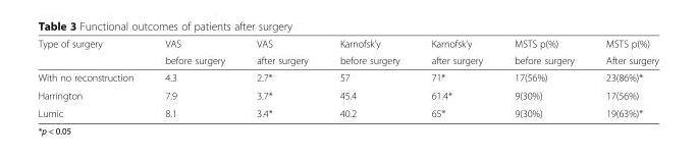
<table><thead><tr><td rowspan="2">Type of surgery</td><td rowspan="2">VAS before surgery</td><td rowspan="2">VAS after surgery</td><td rowspan="2">Karnofsk’y before surgery</td><td rowspan="2">Karnofsk’y after surgery</td><td rowspan="2">MSTS p(%) before surgery</td><td rowspan="2">MSTS p(%) After surgery</td></tr><tr></tr></thead><tbody><tr><td>With no reconstruction</td><td>4.3</td><td>2.7*</td><td>57</td><td>71*</td><td>17(56%)</td><td>23(86%)*</td></tr><tr><td>Harrington</td><td>7.9</td><td>3.7*</td><td>45.4</td><td>61.4*</td><td>9(30%)</td><td>17(56%)</td></tr><tr><td>Lumic</td><td>8.1</td><td>3.4*</td><td>40.2</td><td>65*</td><td>9(30%)</td><td>19(63%)*</td></tr></tbody></table>